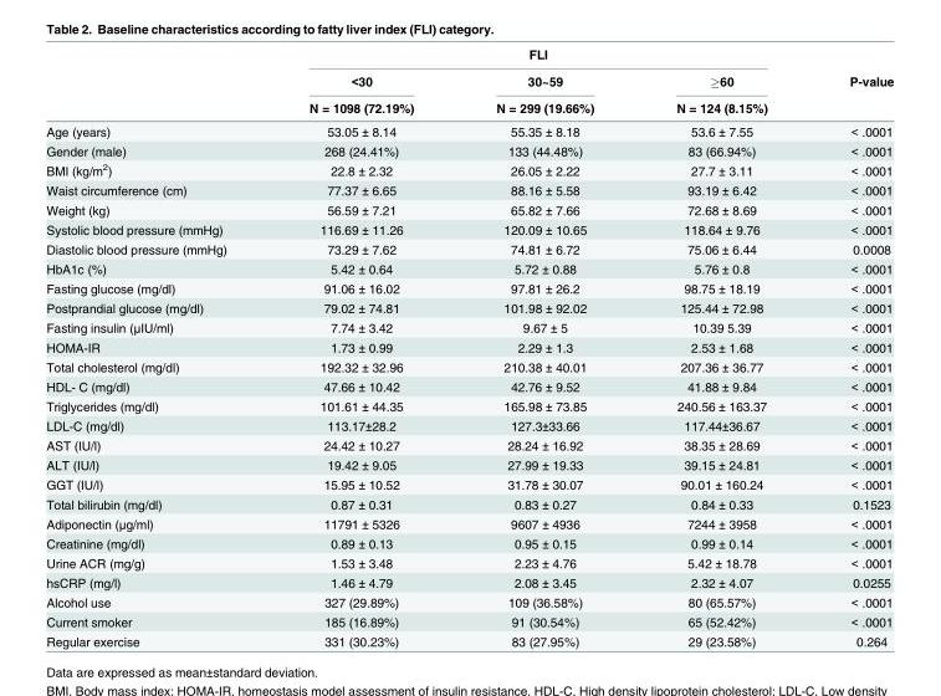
<table><thead><tr><td rowspan="3"></td><td colspan="3">FLI</td><td rowspan="3">P-value</td></tr><tr><td rowspan="2">&lt;30 N = 1098 (72.19%)</td><td rowspan="2">30~59 N = 299 (19.66%)</td><td rowspan="2">≥60 N = 124 (8.15%)</td></tr><tr></tr></thead><tbody><tr><td>Age (years)</td><td>53.05 ± 8.14</td><td>55.35 ± 8.18</td><td>53.6 ± 7.55</td><td>&lt; .0001</td></tr><tr><td>Gender (male)</td><td>268 (24.41%)</td><td>133 (44.48%)</td><td>83 (66.94%)</td><td>&lt; .0001</td></tr><tr><td>BMI (kg/m<sup>2</sup>)</td><td>22.8 ± 2.32</td><td>26.05 ± 2.22</td><td>27.7 ± 3.11</td><td>&lt; .0001</td></tr><tr><td>Waist circumference (cm)</td><td>77.37 ± 6.65</td><td>88.16 ± 5.58</td><td>93.19 ± 6.42</td><td>&lt; .0001</td></tr><tr><td>Weight (kg)</td><td>56.59 ± 7.21</td><td>65.82 ± 7.66</td><td>72.68 ± 8.69</td><td>&lt; .0001</td></tr><tr><td>Systolic blood pressure (mmHg)</td><td>116.69 ± 11.26</td><td>120.09 ± 10.65</td><td>118.64 ± 9.76</td><td>&lt; .0001</td></tr><tr><td>Diastolic blood pressure (mmHg)</td><td>73.29 ± 7.62</td><td>74.81 ± 6.72</td><td>75.06 ± 6.44</td><td>0.0008</td></tr><tr><td>HbA1c (%)</td><td>5.42 ± 0.64</td><td>5.72 ± 0.88</td><td>5.76 ± 0.8</td><td>&lt; .0001</td></tr><tr><td>Fasting glucose (mg/dl)</td><td>91.06 ± 16.02</td><td>97.81 ± 26.2</td><td>98.75 ± 18.19</td><td>&lt; .0001</td></tr><tr><td>Postprandial glucose (mg/dl)</td><td>79.02 ± 74.81</td><td>101.98 ± 92.02</td><td>125.44 ± 72.98</td><td>&lt; .0001</td></tr><tr><td>Fasting insulin (μIU/ml)</td><td>7.74 ± 3.42</td><td>9.67 ± 5</td><td>10.39 5.39</td><td>&lt; .0001</td></tr><tr><td>HOMA-IR</td><td>1.73 ± 0.99</td><td>2.29 ± 1.3</td><td>2.53 ± 1.68</td><td>&lt; .0001</td></tr><tr><td>Total cholesterol (mg/dl)</td><td>192.32 ± 32.96</td><td>210.38 ± 40.01</td><td>207.36 ± 36.77</td><td>&lt; .0001</td></tr><tr><td>HDL- C (mg/dl)</td><td>47.66 ± 10.42</td><td>42.76 ± 9.52</td><td>41.88 ± 9.84</td><td>&lt; .0001</td></tr><tr><td>Triglycerides (mg/dl)</td><td>101.61 ± 44.35</td><td>165.98 ± 73.85</td><td>240.56 ± 163.37</td><td>&lt; .0001</td></tr><tr><td>LDL-C (mg/dl)</td><td>113.17±28.2</td><td>127.3±33.66</td><td>117.44±36.67</td><td>&lt; .0001</td></tr><tr><td>AST (IU/l)</td><td>24.42 ± 10.27</td><td>28.24 ± 16.92</td><td>38.35 ± 28.69</td><td>&lt; .0001</td></tr><tr><td>ALT (IU/l)</td><td>19.42 ± 9.05</td><td>27.99 ± 19.33</td><td>39.15 ± 24.81</td><td>&lt; .0001</td></tr><tr><td>GGT (IU/l)</td><td>15.95 ± 10.52</td><td>31.78 ± 30.07</td><td>90.01 ± 160.24</td><td>&lt; .0001</td></tr><tr><td>Total bilirubin (mg/dl)</td><td>0.87 ± 0.31</td><td>0.83 ± 0.27</td><td>0.84 ± 0.33</td><td>0.1523</td></tr><tr><td>Adiponectin (μg/ml)</td><td>11791 ± 5326</td><td>9607 ± 4936</td><td>7244 ± 3958</td><td>&lt; .0001</td></tr><tr><td>Creatinine (mg/dl)</td><td>0.89 ± 0.13</td><td>0.95 ± 0.15</td><td>0.99 ± 0.14</td><td>&lt; .0001</td></tr><tr><td>Urine ACR (mg/g)</td><td>1.53 ± 3.48</td><td>2.23 ± 4.76</td><td>5.42 ± 18.78</td><td>&lt; .0001</td></tr><tr><td>hsCRP (mg/l)</td><td>1.46 ± 4.79</td><td>2.08 ± 3.45</td><td>2.32 ± 4.07</td><td>0.0255</td></tr><tr><td>Alcohol use</td><td>327 (29.89%)</td><td>109 (36.58%)</td><td>80 (65.57%)</td><td>&lt; .0001</td></tr><tr><td>Current smoker</td><td>185 (16.89%)</td><td>91 (30.54%)</td><td>65 (52.42%)</td><td>&lt; .0001</td></tr><tr><td>Regular exercise</td><td>331 (30.23%)</td><td>83 (27.95%)</td><td>29 (23.58%)</td><td>0.264</td></tr></tbody></table>